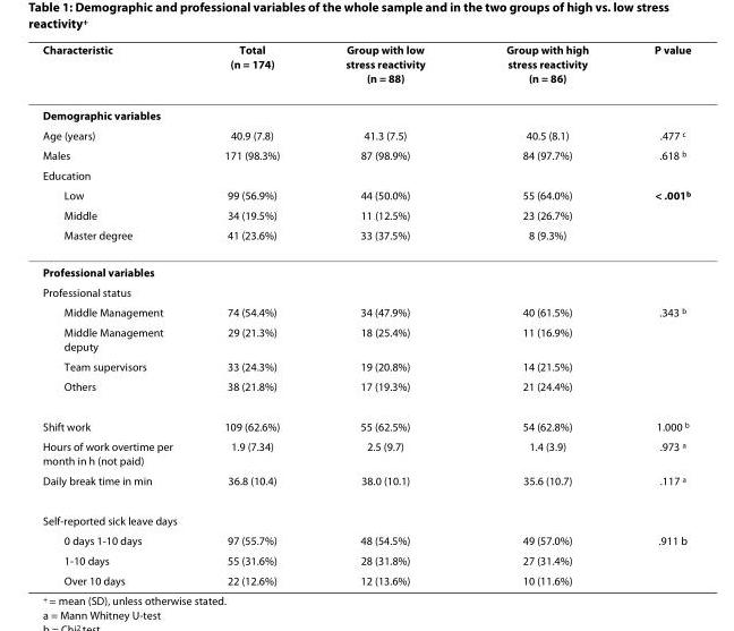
<table><thead><tr><td>Characteristic</td><td>Total (n = 174)</td><td>Group with low stress reactivity (n = 88)</td><td>Group with high stress reactivity (n = 86)</td><td>P value</td></tr></thead><tbody><tr><td colspan="5">Demographic variables</td></tr><tr><td>Age (years)</td><td>40.9 (7.8)</td><td>41.3 (7.5)</td><td>40.5 (8.1)</td><td>.477 <sup>c</sup></td></tr><tr><td>Males</td><td>171 (98.3%)</td><td>87 (98.9%)</td><td>84 (97.7%)</td><td>.618 <sup>b</sup></td></tr><tr><td colspan="5">Education</td></tr><tr><td>Low</td><td>99 (56.9%)</td><td>44 (50.0%)</td><td>55 (64.0%)</td><td>&lt; .001<sup>b</sup></td></tr><tr><td>Middle</td><td>34 (19.5%)</td><td>11 (12.5%)</td><td>23 (26.7%)</td><td></td></tr><tr><td>Master degree</td><td>41 (23.6%)</td><td>33 (37.5%)</td><td>8 (9.3%)</td><td></td></tr><tr><td colspan="5">Professional variables</td></tr><tr><td colspan="5">Professional status</td></tr><tr><td>Middle Management</td><td>74 (54.4%)</td><td>34 (47.9%)</td><td>40 (61.5%)</td><td>.343 <sup>b</sup></td></tr><tr><td>Middle Management deputy</td><td>29 (21.3%)</td><td>18 (25.4%)</td><td>11 (16.9%)</td><td></td></tr><tr><td>Team supervisors</td><td>33 (24.3%)</td><td>19 (20.8%)</td><td>14 (21.5%)</td><td></td></tr><tr><td>Others</td><td>38 (21.8%)</td><td>17 (19.3%)</td><td>21 (24.4%)</td><td></td></tr><tr><td>Shift work</td><td>109 (62.6%)</td><td>55 (62.5%)</td><td>54 (62.8%)</td><td>1.000 <sup>b</sup></td></tr><tr><td>Hours of work overtime per month in h (not paid)</td><td>1.9 (7.34)</td><td>2.5 (9.7)</td><td>1.4 (3.9)</td><td>.973 <sup>a</sup></td></tr><tr><td>Daily break time in min</td><td>36.8 (10.4)</td><td>38.0 (10.1)</td><td>35.6 (10.7)</td><td>.117 <sup>a</sup></td></tr><tr><td colspan="5">Self-reported sick leave days</td></tr><tr><td>0 days 1-10 days</td><td>97 (55.7%)</td><td>48 (54.5%)</td><td>49 (57.0%)</td><td>.911 b</td></tr><tr><td>1-10 days</td><td>55 (31.6%)</td><td>28 (31.8%)</td><td>27 (31.4%)</td><td></td></tr><tr><td>Over 10 days</td><td>22 (12.6%)</td><td>12 (13.6%)</td><td>10 (11.6%)</td><td></td></tr></tbody></table>